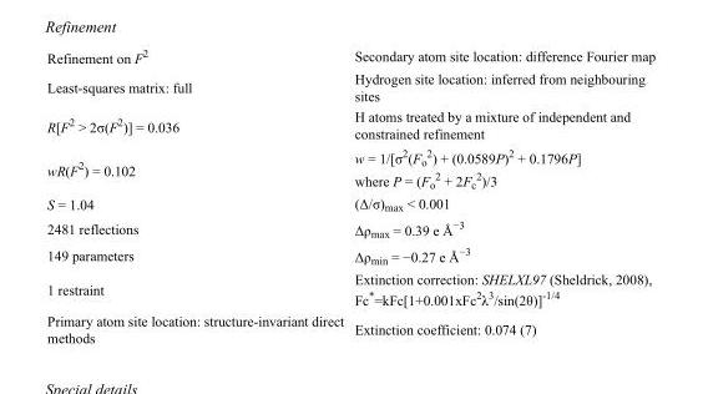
<table><tbody><tr><td>Refinement on F<sup>2</sup></td><td>Secondary atom site location: difference Fourier map</td></tr><tr><td>Least-squares matrix: full</td><td>Hydrogen site location: inferred from neighbouring sites</td></tr><tr><td>R[F<sup>2</sup> &gt; 2σ(F<sup>2</sup>)] = 0.036</td><td>H atoms treated by a mixture of independent and constrained refinement</td></tr><tr><td>wR(F<sup>2</sup>) = 0.102</td><td>w = 1/[σ<sup>2</sup>(F<sub>o</sub> <sup>2</sup>) + (0.0589P)<sup>2</sup> + 0.1796P] where P = (F<sub>o</sub> <sup>2</sup> + 2F<sub>c</sub> <sup>2</sup>)/3</td></tr><tr><td>S = 1.04</td><td>(Δ/σ)<sub>max</sub> &lt; 0.001</td></tr><tr><td>2481 reflections</td><td>Δρ<sub>max</sub> = 0.39 e Å<sup>−3</sup></td></tr><tr><td>149 parameters</td><td>Δρ<sub>min</sub> = −0.27 e Å<sup>−3</sup></td></tr><tr><td>1 restraint</td><td>Extinction correction: SHELXL97 (Sheldrick, 2008), Fc*=kFc[1+0.001xFc<sup>2</sup>λ<sup>3</sup>/sin(2θ)]<sup>-1/4</sup></td></tr><tr><td>Primary atom site location: structure-invariant direct methods</td><td>Extinction coefficient: 0.074 (7)</td></tr></tbody></table>